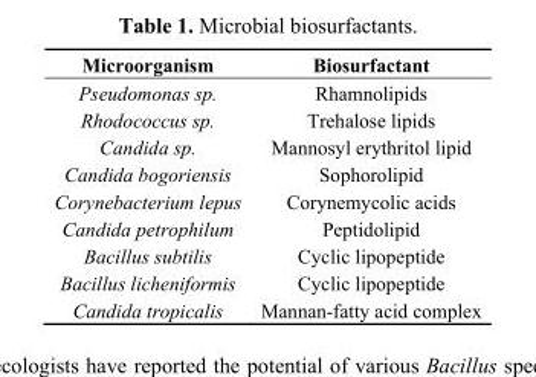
<table><thead><tr><td>Microorganism</td><td>Biosurfactant</td></tr></thead><tbody><tr><td>Pseudomonas sp.</td><td>Rhamnolipids</td></tr><tr><td>Rhodococcus sp.</td><td>Trehalose lipids</td></tr><tr><td>Candida sp.</td><td>Mannosyl erythritol lipid</td></tr><tr><td>Candida bogoriensis</td><td>Sophorolipid</td></tr><tr><td>Corynebacterium lepus</td><td>Corynemycolic acids</td></tr><tr><td>Candida petrophilum</td><td>Peptidolipid</td></tr><tr><td>Bacillus subtilis</td><td>Cyclic lipopeptide</td></tr><tr><td>Bacillus licheniformis</td><td>Cyclic lipopeptide</td></tr><tr><td>Candida tropicalis</td><td>Mannan-fatty acid complex</td></tr></tbody></table>